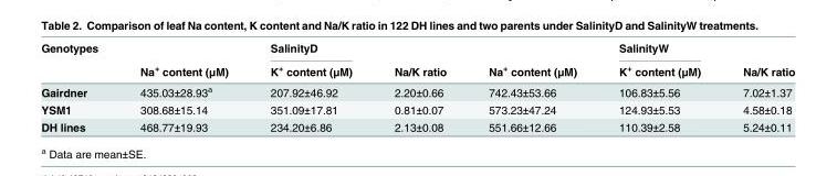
<table><thead><tr><td rowspan="2">Genotypes</td><td rowspan="2">Na<sup>+</sup> content (μM)</td><td rowspan="2">SalinityD K<sup>+</sup> content (μM)</td><td rowspan="2">Na/K ratio</td><td rowspan="2">Na<sup>+</sup> content (μM)</td><td rowspan="2">SalinityW K<sup>+</sup> content (μM)</td><td rowspan="2">Na/K ratio</td></tr><tr></tr></thead><tbody><tr><td>Gairdner</td><td>435.03±28.93<sup>a</sup></td><td>207.92±46.92</td><td>2.20±0.66</td><td>742.43±53.66</td><td>106.83±5.56</td><td>7.02±1.37</td></tr><tr><td>YSM1</td><td>308.68±15.14</td><td>351.09±17.81</td><td>0.81±0.07</td><td>573.23±47.24</td><td>124.93±5.53</td><td>4.58±0.18</td></tr><tr><td>DH lines</td><td>468.77±19.93</td><td>234.20±6.86</td><td>2.13±0.08</td><td>551.66±12.66</td><td>110.39±2.58</td><td>5.24±0.11</td></tr></tbody></table>